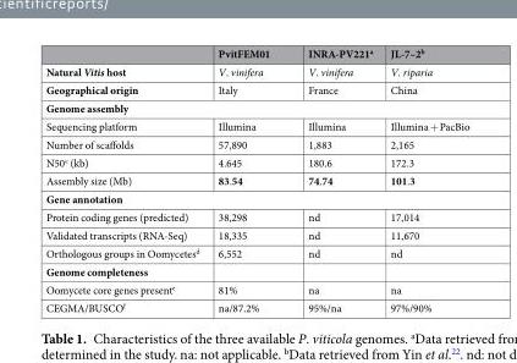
<table><thead><tr><td></td><td>PvitFEM01</td><td>INRA-PV221<sup>a</sup></td><td>JL-7–2<sup>b</sup></td></tr></thead><tbody><tr><td>Natural Vitis host</td><td>V. vinifera</td><td>V. vinifera</td><td>V. riparia</td></tr><tr><td>Geographical origin</td><td>Italy</td><td>France</td><td>China</td></tr><tr><td colspan="4">Genome assembly</td></tr><tr><td>Sequencing platform</td><td>Illumina</td><td>Illumina</td><td>Illumina + PacBio</td></tr><tr><td>Number of scaffolds</td><td>57,890</td><td>1,883</td><td>2,165</td></tr><tr><td>N50<sup>c</sup> (kb)</td><td>4.645</td><td>180.6</td><td>172.3</td></tr><tr><td>Assembly size (Mb)</td><td>83.54</td><td>74.74</td><td>101.3</td></tr><tr><td colspan="4">Gene annotation</td></tr><tr><td>Protein coding genes (predicted)</td><td>38,298</td><td>nd</td><td>17,014</td></tr><tr><td>Validated transcripts (RNA-Seq)</td><td>18,335</td><td>nd</td><td>11,670</td></tr><tr><td>Orthologous groups in Oomycetes<sup>d</sup></td><td>6,552</td><td>nd</td><td>nd</td></tr><tr><td colspan="4">Genome completeness</td></tr><tr><td>Oomycete core genes present<sup>e</sup></td><td>81%</td><td>na</td><td>na</td></tr><tr><td>CEGMA/BUSCO<sup>f</sup></td><td>na/87.2%</td><td>95%/na</td><td>97%/90%</td></tr></tbody></table>